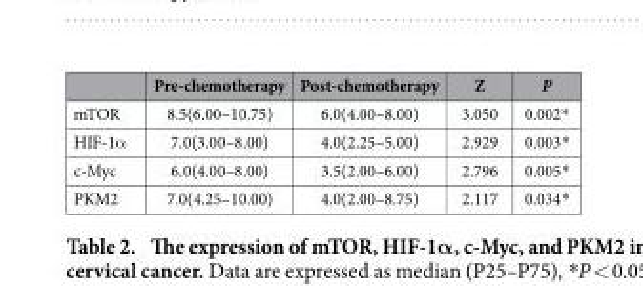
<table><thead><tr><td></td><td>Pre-chemotherapy</td><td>Post-chemotherapy</td><td>Z</td><td>P</td></tr></thead><tbody><tr><td>mTOR</td><td>8.5(6.00–10.75)</td><td>6.0(4.00–8.00)</td><td>3.050</td><td>0.002*</td></tr><tr><td>HIF-1α</td><td>7.0(3.00–8.00)</td><td>4.0(2.25–5.00)</td><td>2.929</td><td>0.003*</td></tr><tr><td>c-Myc</td><td>6.0(4.00–8.00)</td><td>3.5(2.00–6.00)</td><td>2.796</td><td>0.005*</td></tr><tr><td>PKM2</td><td>7.0(4.25–10.00)</td><td>4.0(2.00–8.75)</td><td>2.117</td><td>0.034*</td></tr></tbody></table>